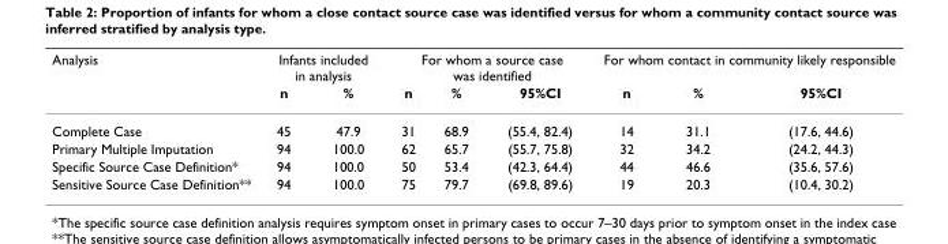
<table><thead><tr><td rowspan="2">Analysis</td><td colspan="2">Infants included in analysis</td><td colspan="3">For whom a source case was identified</td><td colspan="3">For whom contact in community likely responsible</td></tr><tr><td>n</td><td>%</td><td>n</td><td>%</td><td>95%CI</td><td>n</td><td>%</td><td>95%CI</td></tr></thead><tbody><tr><td>Complete Case</td><td>45</td><td>47.9</td><td>31</td><td>68.9</td><td>(55.4, 82.4)</td><td>14</td><td>31.1</td><td>(17.6, 44.6)</td></tr><tr><td>Primary Multiple Imputation</td><td>94</td><td>100.0</td><td>62</td><td>65.7</td><td>(55.7, 75.8)</td><td>32</td><td>34.2</td><td>(24.2, 44.3)</td></tr><tr><td>Specific Source Case Definition*</td><td>94</td><td>100.0</td><td>50</td><td>53.4</td><td>(42.3, 64.4)</td><td>44</td><td>46.6</td><td>(35.6, 57.6)</td></tr><tr><td>Sensitive Source Case Definition**</td><td>94</td><td>100.0</td><td>75</td><td>79.7</td><td>(69.8, 89.6)</td><td>19</td><td>20.3</td><td>(10.4, 30.2)</td></tr></tbody></table>